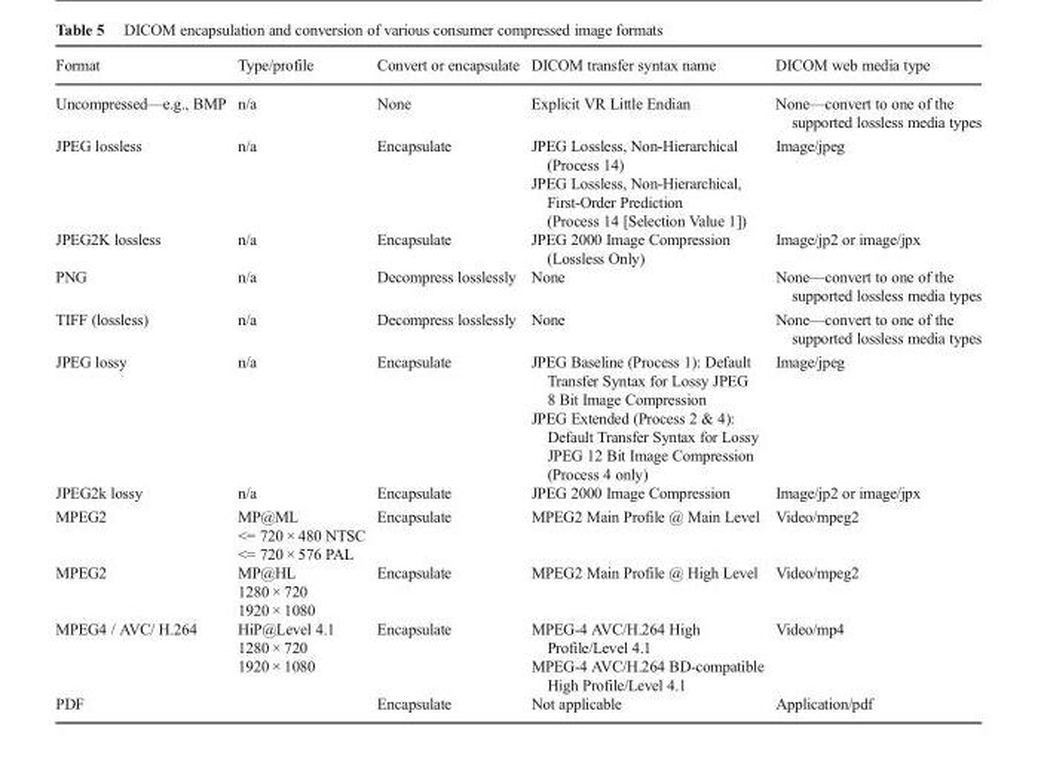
<table><thead><tr><td>Format</td><td>Type/profile</td><td>Convert or encapsulate</td><td>DICOM transfer syntax name</td><td>DICOM web media type</td></tr></thead><tbody><tr><td>Uncompressed—e.g., BMP</td><td>n/a</td><td>None</td><td>Explicit VR Little Endian</td><td>None—convert to one of the supported lossless media types</td></tr><tr><td>JPEG lossless</td><td>n/a</td><td>Encapsulate</td><td>JPEG Lossless, Non-Hierarchical (Process 14) JPEG Lossless, Non-Hierarchical, First-Order Prediction (Process 14 [Selection Value 1])</td><td>Image/jpeg</td></tr><tr><td>JPEG2K lossless</td><td>n/a</td><td>Encapsulate</td><td>JPEG 2000 Image Compression (Lossless Only)</td><td>Image/jp2 or image/jpx</td></tr><tr><td>PNG</td><td>n/a</td><td>Decompress losslessly</td><td>None</td><td>None—convert to one of the supported lossless media types</td></tr><tr><td>TIFF (lossless)</td><td>n/a</td><td>Decompress losslessly</td><td>None</td><td>None—convert to one of the supported lossless media types</td></tr><tr><td>JPEG lossy</td><td>n/a</td><td>Encapsulate</td><td>JPEG Baseline (Process 1): Default Transfer Syntax for Lossy JPEG 8 Bit Image Compression JPEG Extended (Process 2 &amp; 4): Default Transfer Syntax for Lossy JPEG 12 Bit Image Compression (Process 4 only)</td><td>Image/jpeg</td></tr><tr><td>JPEG2k lossy</td><td>n/a</td><td>Encapsulate</td><td>JPEG 2000 Image Compression</td><td>Image/jp2 or image/jpx</td></tr><tr><td>MPEG2</td><td>MP@ML &lt;= 720 × 480 NTSC &lt;= 720 × 576 PAL</td><td>Encapsulate</td><td>MPEG2 Main Profile @ Main Level</td><td>Video/mpeg2</td></tr><tr><td>MPEG2</td><td>MP@HL 1280 × 720 1920 × 1080</td><td>Encapsulate</td><td>MPEG2 Main Profile @ High Level</td><td>Video/mpeg2</td></tr><tr><td>MPEG4 / AVC/ H.264</td><td>HiP@Level 4.1 1280 × 720 1920 × 1080</td><td>Encapsulate</td><td>MPEG-4 AVC/H.264 High Profile/Level 4.1 MPEG-4 AVC/H.264 BD-compatible High Profile/Level 4.1</td><td>Video/mp4</td></tr><tr><td>PDF</td><td></td><td>Encapsulate</td><td>Not applicable</td><td>Application/pdf</td></tr></tbody></table>